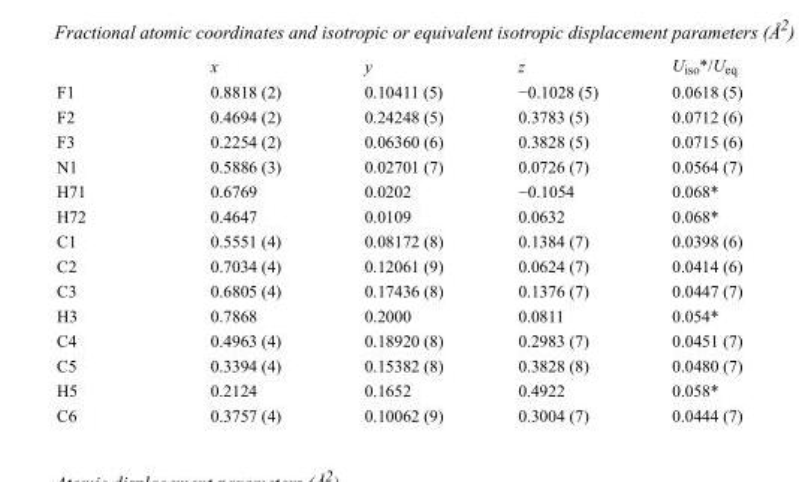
<table><thead><tr><td></td><td>x</td><td>y</td><td>z</td><td>U<sub>iso</sub>*/U<sub>eq</sub></td></tr></thead><tbody><tr><td>F1</td><td>0.8818 (2)</td><td>0.10411 (5)</td><td>−0.1028 (5)</td><td>0.0618 (5)</td></tr><tr><td>F2</td><td>0.4694 (2)</td><td>0.24248 (5)</td><td>0.3783 (5)</td><td>0.0712 (6)</td></tr><tr><td>F3</td><td>0.2254 (2)</td><td>0.06360 (6)</td><td>0.3828 (5)</td><td>0.0715 (6)</td></tr><tr><td>N1</td><td>0.5886 (3)</td><td>0.02701 (7)</td><td>0.0726 (7)</td><td>0.0564 (7)</td></tr><tr><td>H71</td><td>0.6769</td><td>0.0202</td><td>−0.1054</td><td>0.068*</td></tr><tr><td>H72</td><td>0.4647</td><td>0.0109</td><td>0.0632</td><td>0.068*</td></tr><tr><td>C1</td><td>0.5551 (4)</td><td>0.08172 (8)</td><td>0.1384 (7)</td><td>0.0398 (6)</td></tr><tr><td>C2</td><td>0.7034 (4)</td><td>0.12061 (9)</td><td>0.0624 (7)</td><td>0.0414 (6)</td></tr><tr><td>C3</td><td>0.6805 (4)</td><td>0.17436 (8)</td><td>0.1376 (7)</td><td>0.0447 (7)</td></tr><tr><td>H3</td><td>0.7868</td><td>0.2000</td><td>0.0811</td><td>0.054*</td></tr><tr><td>C4</td><td>0.4963 (4)</td><td>0.18920 (8)</td><td>0.2983 (7)</td><td>0.0451 (7)</td></tr><tr><td>C5</td><td>0.3394 (4)</td><td>0.15382 (8)</td><td>0.3828 (8)</td><td>0.0480 (7)</td></tr><tr><td>H5</td><td>0.2124</td><td>0.1652</td><td>0.4922</td><td>0.058*</td></tr><tr><td>C6</td><td>0.3757 (4)</td><td>0.10062 (9)</td><td>0.3004 (7)</td><td>0.0444 (7)</td></tr></tbody></table>